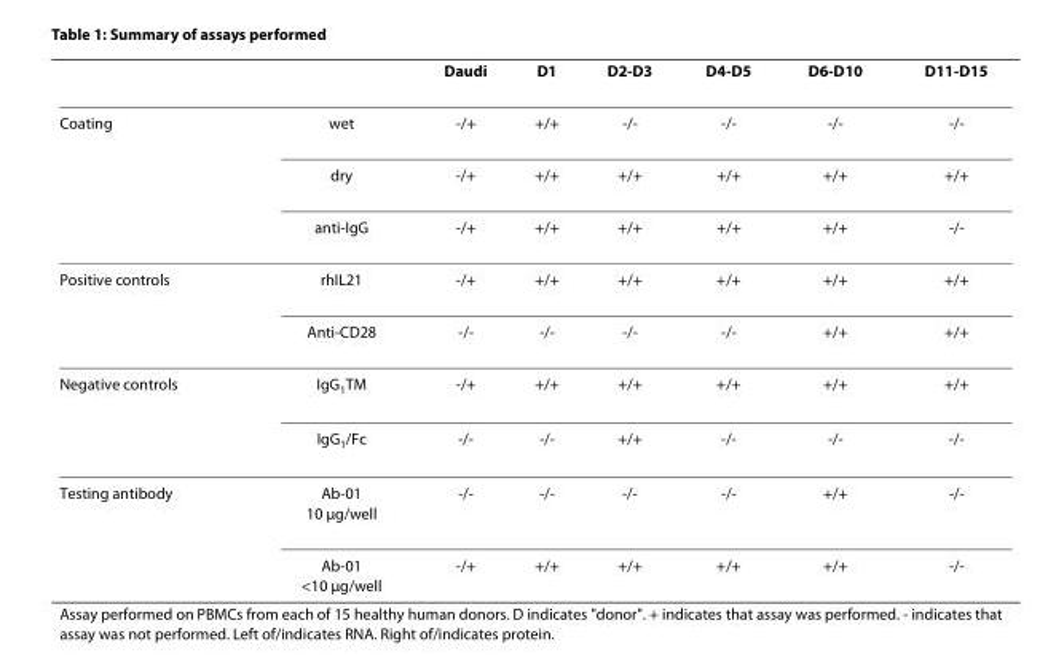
<table><thead><tr><td></td><td></td><td>Daudi</td><td>D1</td><td>D2-D3</td><td>D4-D5</td><td>D6-D10</td><td>D11-D15</td></tr></thead><tbody><tr><td rowspan="3">Coating</td><td>wet</td><td>-/+</td><td>+/+</td><td>-/-</td><td>-/-</td><td>-/-</td><td>-/-</td></tr><tr><td>dry</td><td>-/+</td><td>+/+</td><td>+/+</td><td>+/+</td><td>+/+</td><td>+/+</td></tr><tr><td>anti-IgG</td><td>-/+</td><td>+/+</td><td>+/+</td><td>+/+</td><td>+/+</td><td>-/-</td></tr><tr><td rowspan="2">Positive controls</td><td>rhIL21</td><td>-/+</td><td>+/+</td><td>+/+</td><td>+/+</td><td>+/+</td><td>+/+</td></tr><tr><td>Anti-CD28</td><td>-/-</td><td>-/-</td><td>-/-</td><td>-/-</td><td>+/+</td><td>+/+</td></tr><tr><td rowspan="2">Negative controls</td><td>IgG<sub>1</sub>TM</td><td>-/+</td><td>+/+</td><td>+/+</td><td>+/+</td><td>+/+</td><td>+/+</td></tr><tr><td>IgG<sub>1</sub>/Fc</td><td>-/-</td><td>-/-</td><td>+/+</td><td>-/-</td><td>-/-</td><td>-/-</td></tr><tr><td rowspan="2">Testing antibody</td><td>Ab-01 10 μg/well</td><td>-/-</td><td>-/-</td><td>-/-</td><td>-/-</td><td>+/+</td><td>-/-</td></tr><tr><td>Ab-01 &lt;10 μg/well</td><td>-/+</td><td>+/+</td><td>+/+</td><td>+/+</td><td>+/+</td><td>-/-</td></tr></tbody></table>